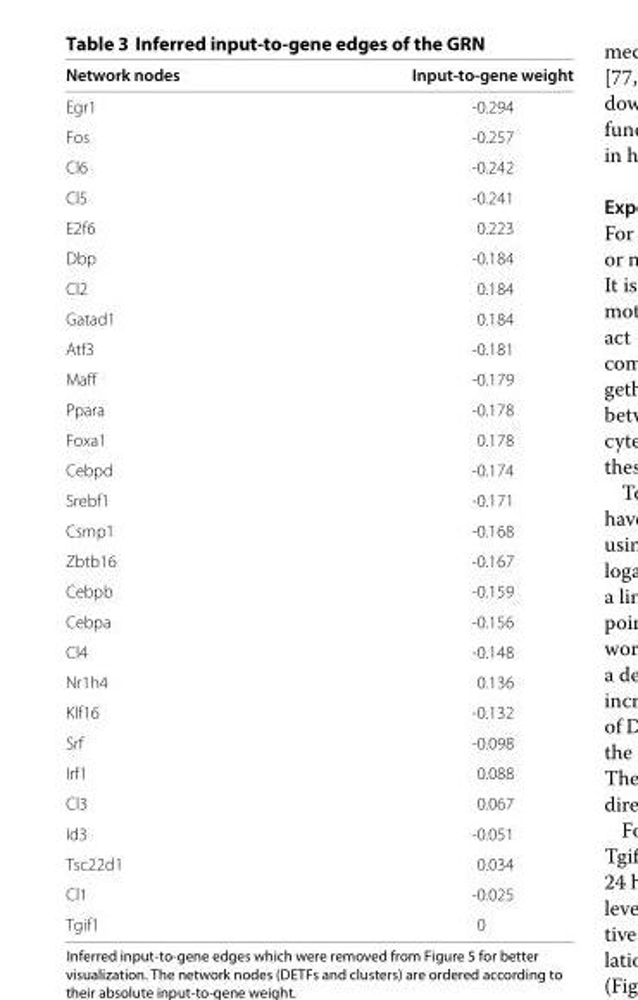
<table><thead><tr><td>Network nodes</td><td>Input-to-gene weight</td></tr></thead><tbody><tr><td>Egr1</td><td>-0.294</td></tr><tr><td>Fos</td><td>-0.257</td></tr><tr><td>Cl6</td><td>-0.242</td></tr><tr><td>Cl5</td><td>-0.241</td></tr><tr><td>E2f6</td><td>0.223</td></tr><tr><td>Dbp</td><td>-0.184</td></tr><tr><td>Cl2</td><td>0.184</td></tr><tr><td>Gatad1</td><td>0.184</td></tr><tr><td>Atf3</td><td>-0.181</td></tr><tr><td>Maff</td><td>-0.179</td></tr><tr><td>Ppara</td><td>-0.178</td></tr><tr><td>Foxa1</td><td>0.178</td></tr><tr><td>Cebpd</td><td>-0.174</td></tr><tr><td>Srebf1</td><td>-0.171</td></tr><tr><td>Csrnp1</td><td>-0.168</td></tr><tr><td>Zbtb16</td><td>-0.167</td></tr><tr><td>Cebpb</td><td>-0.159</td></tr><tr><td>Cebpa</td><td>-0.156</td></tr><tr><td>Cl4</td><td>-0.148</td></tr><tr><td>Nr1h4</td><td>0.136</td></tr><tr><td>Klf16</td><td>-0.132</td></tr><tr><td>Srf</td><td>-0.098</td></tr><tr><td>Irf1</td><td>0.088</td></tr><tr><td>Cl3</td><td>0.067</td></tr><tr><td>Id3</td><td>-0.051</td></tr><tr><td>Tsc22d1</td><td>0.034</td></tr><tr><td>Cl1</td><td>-0.025</td></tr><tr><td>Tgif1</td><td>0</td></tr></tbody></table>